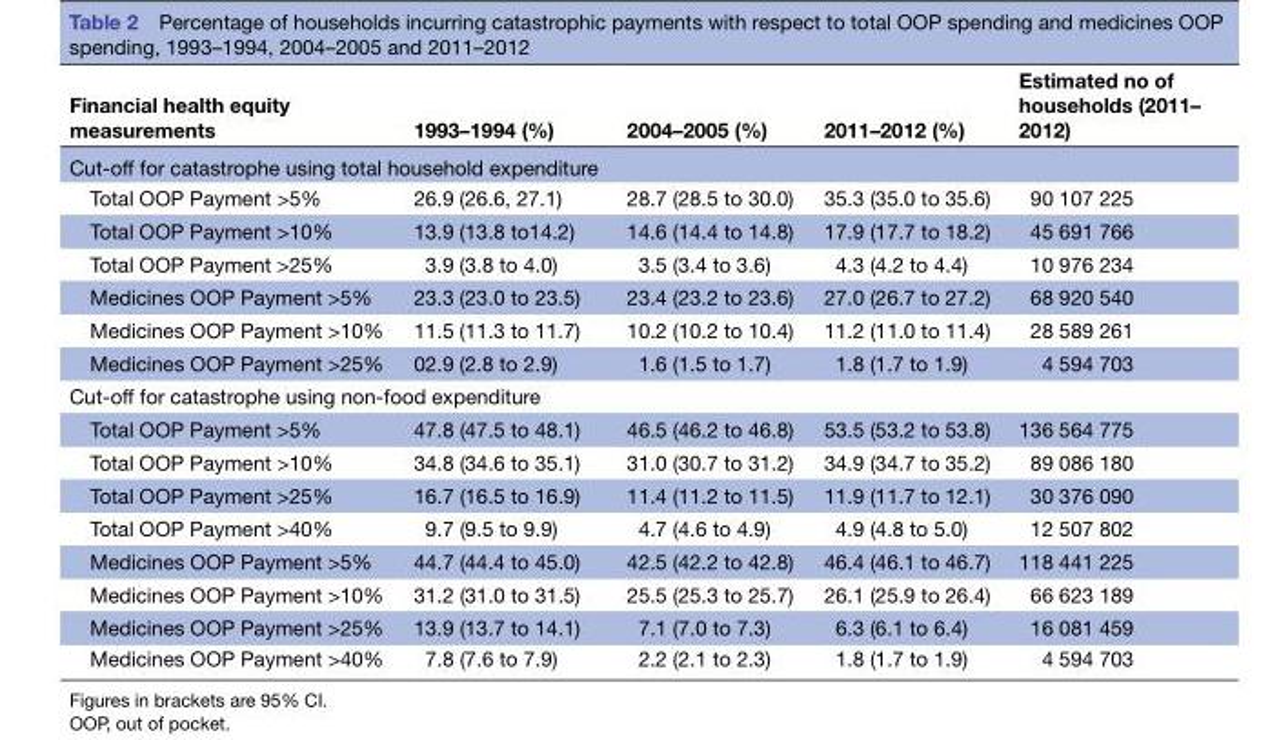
<table><thead><tr><td>Financial health equity measurements</td><td>1993–1994 (%)</td><td>2004–2005 (%)</td><td>2011–2012 (%)</td><td>Estimated no of households (2011– 2012)</td></tr></thead><tbody><tr><td colspan="5">Cut-off for catastrophe using total household expenditure</td></tr><tr><td>Total OOP Payment &gt;5%</td><td>26.9 (26.6, 27.1)</td><td>28.7 (28.5 to 30.0)</td><td>35.3 (35.0 to 35.6)</td><td>90 107 225</td></tr><tr><td>Total OOP Payment &gt;10%</td><td>13.9 (13.8 to14.2)</td><td>14.6 (14.4 to 14.8)</td><td>17.9 (17.7 to 18.2)</td><td>45 691 766</td></tr><tr><td>Total OOP Payment &gt;25%</td><td>3.9 (3.8 to 4.0)</td><td>3.5 (3.4 to 3.6)</td><td>4.3 (4.2 to 4.4)</td><td>10 976 234</td></tr><tr><td>Medicines OOP Payment &gt;5%</td><td>23.3 (23.0 to 23.5)</td><td>23.4 (23.2 to 23.6)</td><td>27.0 (26.7 to 27.2)</td><td>68 920 540</td></tr><tr><td>Medicines OOP Payment &gt;10%</td><td>11.5 (11.3 to 11.7)</td><td>10.2 (10.2 to 10.4)</td><td>11.2 (11.0 to 11.4)</td><td>28 589 261</td></tr><tr><td>Medicines OOP Payment &gt;25%</td><td>02.9 (2.8 to 2.9)</td><td>1.6 (1.5 to 1.7)</td><td>1.8 (1.7 to 1.9)</td><td>4 594 703</td></tr><tr><td colspan="5">Cut-off for catastrophe using non-food expenditure</td></tr><tr><td>Total OOP Payment &gt;5%</td><td>47.8 (47.5 to 48.1)</td><td>46.5 (46.2 to 46.8)</td><td>53.5 (53.2 to 53.8)</td><td>136 564 775</td></tr><tr><td>Total OOP Payment &gt;10%</td><td>34.8 (34.6 to 35.1)</td><td>31.0 (30.7 to 31.2)</td><td>34.9 (34.7 to 35.2)</td><td>89 086 180</td></tr><tr><td>Total OOP Payment &gt;25%</td><td>16.7 (16.5 to 16.9)</td><td>11.4 (11.2 to 11.5)</td><td>11.9 (11.7 to 12.1)</td><td>30 376 090</td></tr><tr><td>Total OOP Payment &gt;40%</td><td>9.7 (9.5 to 9.9)</td><td>4.7 (4.6 to 4.9)</td><td>4.9 (4.8 to 5.0)</td><td>12 507 802</td></tr><tr><td>Medicines OOP Payment &gt;5%</td><td>44.7 (44.4 to 45.0)</td><td>42.5 (42.2 to 42.8)</td><td>46.4 (46.1 to 46.7)</td><td>118 441 225</td></tr><tr><td>Medicines OOP Payment &gt;10%</td><td>31.2 (31.0 to 31.5)</td><td>25.5 (25.3 to 25.7)</td><td>26.1 (25.9 to 26.4)</td><td>66 623 189</td></tr><tr><td>Medicines OOP Payment &gt;25%</td><td>13.9 (13.7 to 14.1)</td><td>7.1 (7.0 to 7.3)</td><td>6.3 (6.1 to 6.4)</td><td>16 081 459</td></tr><tr><td>Medicines OOP Payment &gt;40%</td><td>7.8 (7.6 to 7.9)</td><td>2.2 (2.1 to 2.3)</td><td>1.8 (1.7 to 1.9)</td><td>4 594 703</td></tr></tbody></table>